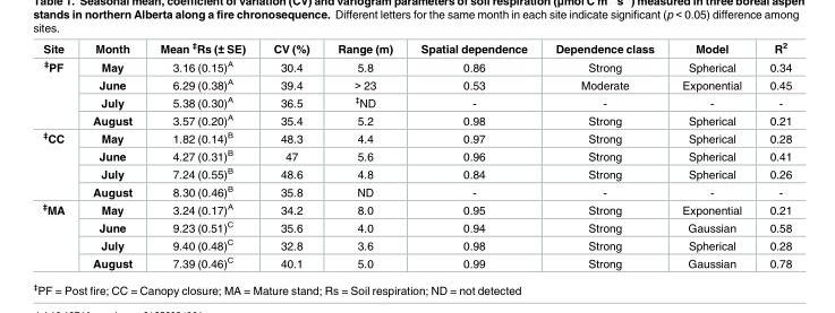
<table><thead><tr><td>Site</td><td>Month</td><td>Mean <sup>‡</sup>Rs (± SE)</td><td>CV (%)</td><td>Range (m)</td><td>Spatial dependence</td><td>Dependence class</td><td>Model</td><td>R<sup>2</sup></td></tr></thead><tbody><tr><td rowspan="4"><sup>‡</sup>PF</td><td>May</td><td>3.16 (0.15)<sup>A</sup></td><td>30.4</td><td>5.8</td><td>0.86</td><td>Strong</td><td>Spherical</td><td>0.34</td></tr><tr><td>June</td><td>6.29 (0.38)<sup>A</sup></td><td>39.4</td><td>&gt; 23</td><td>0.53</td><td>Moderate</td><td>Exponential</td><td>0.45</td></tr><tr><td>July</td><td>5.38 (0.30)<sup>A</sup></td><td>36.5</td><td><sup>‡</sup>ND</td><td>-</td><td>-</td><td>-</td><td>-</td></tr><tr><td>August</td><td>3.57 (0.20)<sup>A</sup></td><td>35.4</td><td>5.2</td><td>0.98</td><td>Strong</td><td>Spherical</td><td>0.21</td></tr><tr><td rowspan="4"><sup>‡</sup>CC</td><td>May</td><td>1.82 (0.14)<sup>B</sup></td><td>48.3</td><td>4.4</td><td>0.97</td><td>Strong</td><td>Spherical</td><td>0.28</td></tr><tr><td>June</td><td>4.27 (0.31)<sup>B</sup></td><td>47</td><td>5.6</td><td>0.96</td><td>Strong</td><td>Spherical</td><td>0.41</td></tr><tr><td>July</td><td>7.24 (0.55)<sup>B</sup></td><td>48.6</td><td>4.8</td><td>0.84</td><td>Strong</td><td>Spherical</td><td>0.26</td></tr><tr><td>August</td><td>8.30 (0.46)<sup>B</sup></td><td>35.8</td><td>ND</td><td>-</td><td>-</td><td>-</td><td>-</td></tr><tr><td rowspan="4"><sup>‡</sup>MA</td><td>May</td><td>3.24 (0.17)<sup>A</sup></td><td>34.2</td><td>8.0</td><td>0.95</td><td>Strong</td><td>Exponential</td><td>0.21</td></tr><tr><td>June</td><td>9.23 (0.51)<sup>C</sup></td><td>35.6</td><td>4.0</td><td>0.94</td><td>Strong</td><td>Gaussian</td><td>0.58</td></tr><tr><td>July</td><td>9.40 (0.48)<sup>C</sup></td><td>32.8</td><td>3.6</td><td>0.98</td><td>Strong</td><td>Spherical</td><td>0.28</td></tr><tr><td>August</td><td>7.39 (0.46)<sup>C</sup></td><td>40.1</td><td>5.0</td><td>0.99</td><td>Strong</td><td>Gaussian</td><td>0.78</td></tr></tbody></table>